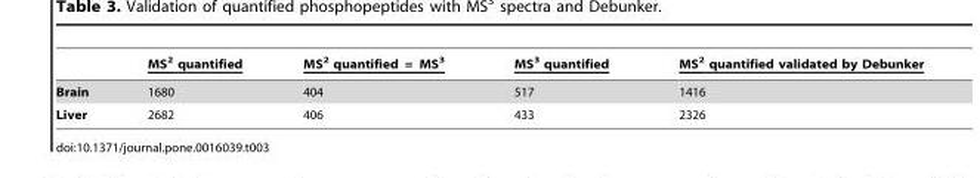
<table><thead><tr><td></td><td>MS<sup>2</sup> quantified</td><td>MS<sup>2</sup> quantified = MS<sup>3</sup></td><td>MS<sup>3</sup> quantified</td><td>MS<sup>2</sup> quantified validated by Debunker</td></tr></thead><tbody><tr><td>Brain</td><td>1680</td><td>404</td><td>517</td><td>1416</td></tr><tr><td>Liver</td><td>2682</td><td>406</td><td>433</td><td>2326</td></tr></tbody></table>